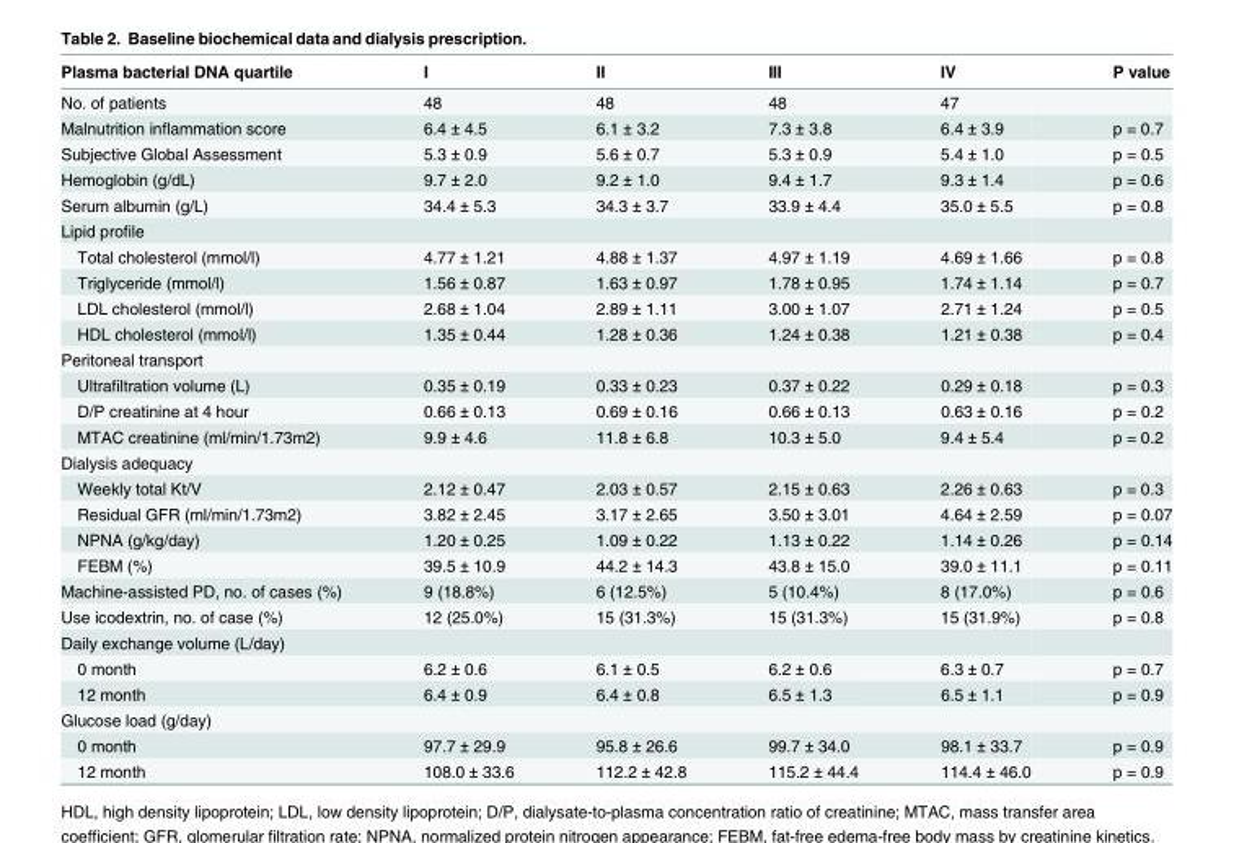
<table><thead><tr><td>Plasma bacterial DNA quartile</td><td>I</td><td>II</td><td>III</td><td>IV</td><td>P value</td></tr></thead><tbody><tr><td>No. of patients</td><td>48</td><td>48</td><td>48</td><td>47</td><td></td></tr><tr><td>Malnutrition inflammation score</td><td>6.4 ± 4.5</td><td>6.1 ± 3.2</td><td>7.3 ± 3.8</td><td>6.4 ± 3.9</td><td>p = 0.7</td></tr><tr><td>Subjective Global Assessment</td><td>5.3 ± 0.9</td><td>5.6 ± 0.7</td><td>5.3 ± 0.9</td><td>5.4 ± 1.0</td><td>p = 0.5</td></tr><tr><td>Hemoglobin (g/dL)</td><td>9.7 ± 2.0</td><td>9.2 ± 1.0</td><td>9.4 ± 1.7</td><td>9.3 ± 1.4</td><td>p = 0.6</td></tr><tr><td>Serum albumin (g/L)</td><td>34.4 ± 5.3</td><td>34.3 ± 3.7</td><td>33.9 ± 4.4</td><td>35.0 ± 5.5</td><td>p = 0.8</td></tr><tr><td colspan="6">Lipid profile</td></tr><tr><td>Total cholesterol (mmol/l)</td><td>4.77 ± 1.21</td><td>4.88 ± 1.37</td><td>4.97 ± 1.19</td><td>4.69 ± 1.66</td><td>p = 0.8</td></tr><tr><td>Triglyceride (mmol/l)</td><td>1.56 ± 0.87</td><td>1.63 ± 0.97</td><td>1.78 ± 0.95</td><td>1.74 ± 1.14</td><td>p = 0.7</td></tr><tr><td>LDL cholesterol (mmol/l)</td><td>2.68 ± 1.04</td><td>2.89 ± 1.11</td><td>3.00 ± 1.07</td><td>2.71 ± 1.24</td><td>p = 0.5</td></tr><tr><td>HDL cholesterol (mmol/l)</td><td>1.35 ± 0.44</td><td>1.28 ± 0.36</td><td>1.24 ± 0.38</td><td>1.21 ± 0.38</td><td>p = 0.4</td></tr><tr><td colspan="6">Peritoneal transport</td></tr><tr><td>Ultrafiltration volume (L)</td><td>0.35 ± 0.19</td><td>0.33 ± 0.23</td><td>0.37 ± 0.22</td><td>0.29 ± 0.18</td><td>p = 0.3</td></tr><tr><td>D/P creatinine at 4 hour</td><td>0.66 ± 0.13</td><td>0.69 ± 0.16</td><td>0.66 ± 0.13</td><td>0.63 ± 0.16</td><td>p = 0.2</td></tr><tr><td>MTAC creatinine (ml/min/1.73m2)</td><td>9.9 ± 4.6</td><td>11.8 ± 6.8</td><td>10.3 ± 5.0</td><td>9.4 ± 5.4</td><td>p = 0.2</td></tr><tr><td colspan="6">Dialysis adequacy</td></tr><tr><td>Weekly total Kt/V</td><td>2.12 ± 0.47</td><td>2.03 ± 0.57</td><td>2.15 ± 0.63</td><td>2.26 ± 0.63</td><td>p = 0.3</td></tr><tr><td>Residual GFR (ml/min/1.73m2)</td><td>3.82 ± 2.45</td><td>3.17 ± 2.65</td><td>3.50 ± 3.01</td><td>4.64 ± 2.59</td><td>p = 0.07</td></tr><tr><td>NPNA (g/kg/day)</td><td>1.20 ± 0.25</td><td>1.09 ± 0.22</td><td>1.13 ± 0.22</td><td>1.14 ± 0.26</td><td>p = 0.14</td></tr><tr><td>FEBM (%)</td><td>39.5 ± 10.9</td><td>44.2 ± 14.3</td><td>43.8 ± 15.0</td><td>39.0 ± 11.1</td><td>p = 0.11</td></tr><tr><td>Machine-assisted PD, no. of cases (%)</td><td>9 (18.8%)</td><td>6 (12.5%)</td><td>5 (10.4%)</td><td>8 (17.0%)</td><td>p = 0.6</td></tr><tr><td>Use icodextrin, no. of case (%)</td><td>12 (25.0%)</td><td>15 (31.3%)</td><td>15 (31.3%)</td><td>15 (31.9%)</td><td>p = 0.8</td></tr><tr><td colspan="6">Daily exchange volume (L/day)</td></tr><tr><td>0 month</td><td>6.2 ± 0.6</td><td>6.1 ± 0.5</td><td>6.2 ± 0.6</td><td>6.3 ± 0.7</td><td>p = 0.7</td></tr><tr><td>12 month</td><td>6.4 ± 0.9</td><td>6.4 ± 0.8</td><td>6.5 ± 1.3</td><td>6.5 ± 1.1</td><td>p = 0.9</td></tr><tr><td colspan="6">Glucose load (g/day)</td></tr><tr><td>0 month</td><td>97.7 ± 29.9</td><td>95.8 ± 26.6</td><td>99.7 ± 34.0</td><td>98.1 ± 33.7</td><td>p = 0.9</td></tr><tr><td>12 month</td><td>108.0 ± 33.6</td><td>112.2 ± 42.8</td><td>115.2 ± 44.4</td><td>114.4 ± 46.0</td><td>p = 0.9</td></tr></tbody></table>